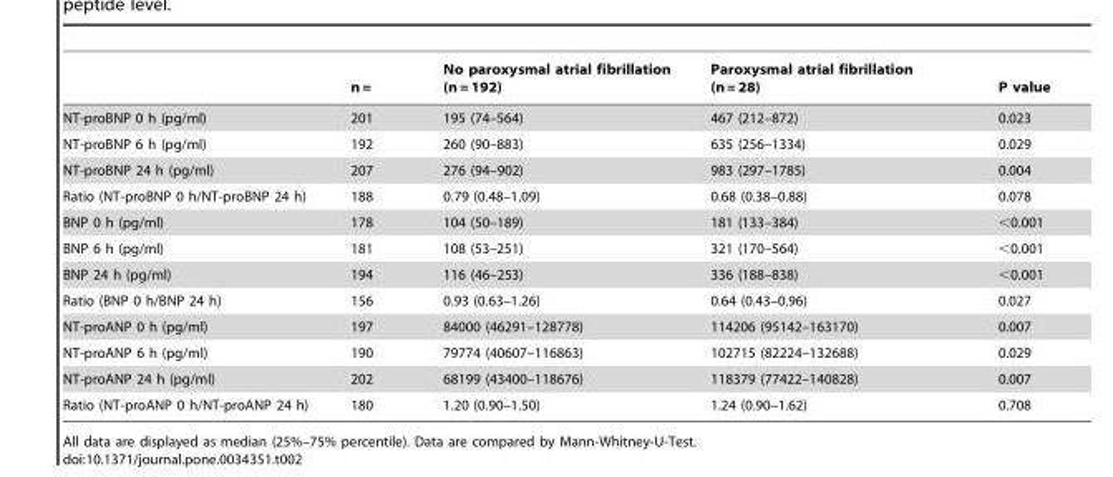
<table><thead><tr><td></td><td>n =</td><td>No paroxysmal atrial fibrillation (n = 192)</td><td>Paroxysmal atrial fibrillation (n = 28)</td><td>P value</td></tr></thead><tbody><tr><td>NT-proBNP 0 h (pg/ml)</td><td>201</td><td>195 (74–564)</td><td>467 (212–872)</td><td>0.023</td></tr><tr><td>NT-proBNP 6 h (pg/ml)</td><td>192</td><td>260 (90–883)</td><td>635 (256–1334)</td><td>0.029</td></tr><tr><td>NT-proBNP 24 h (pg/ml)</td><td>207</td><td>276 (94–902)</td><td>983 (297–1785)</td><td>0.004</td></tr><tr><td>Ratio (NT-proBNP 0 h/NT-proBNP 24 h)</td><td>188</td><td>0.79 (0.48–1.09)</td><td>0.68 (0.38–0.88)</td><td>0.078</td></tr><tr><td>BNP 0 h (pg/ml)</td><td>178</td><td>104 (50–189)</td><td>181 (133–384)</td><td>&lt;0.001</td></tr><tr><td>BNP 6 h (pg/ml)</td><td>181</td><td>108 (53–251)</td><td>321 (170–564)</td><td>&lt;0.001</td></tr><tr><td>BNP 24 h (pg/ml)</td><td>194</td><td>116 (46–253)</td><td>336 (188–838)</td><td>&lt;0.001</td></tr><tr><td>Ratio (BNP 0 h/BNP 24 h)</td><td>156</td><td>0.93 (0.63–1.26)</td><td>0.64 (0.43–0.96)</td><td>0.027</td></tr><tr><td>NT-proANP 0 h (pg/ml)</td><td>197</td><td>84000 (46291–128778)</td><td>114206 (95142–163170)</td><td>0.007</td></tr><tr><td>NT-proANP 6 h (pg/ml)</td><td>190</td><td>79774 (40607–116863)</td><td>102715 (82224–132688)</td><td>0.029</td></tr><tr><td>NT-proANP 24 h (pg/ml)</td><td>202</td><td>68199 (43400–118676)</td><td>118379 (77422–140828)</td><td>0.007</td></tr><tr><td>Ratio (NT-proANP 0 h/NT-proANP 24 h)</td><td>180</td><td>1.20 (0.90–1.50)</td><td>1.24 (0.90–1.62)</td><td>0.708</td></tr></tbody></table>